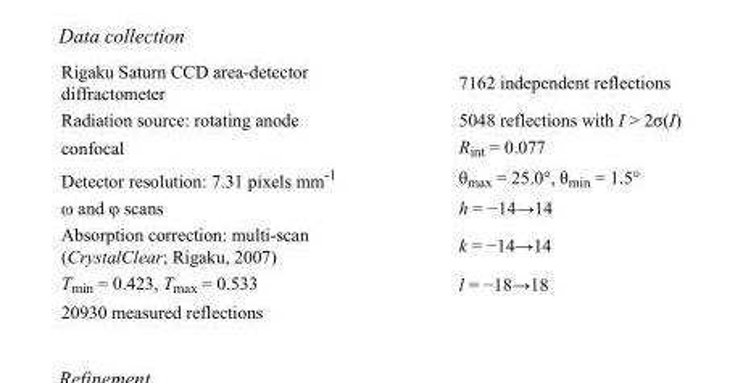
<table><tbody><tr><td>Rigaku Saturn CCD area-detector diffractometer</td><td>7162 independent reflections</td></tr><tr><td>Radiation source: rotating anode</td><td>5048 reflections with I &gt; 2σ(I)</td></tr><tr><td>confocal</td><td>R<sub>int</sub> = 0.077</td></tr><tr><td>Detector resolution: 7.31 pixels mm<sup>-1</sup></td><td>θ<sub>max</sub> = 25.0°, θ<sub>min</sub> = 1.5°</td></tr><tr><td>ω and φ scans</td><td>h = −14→14</td></tr><tr><td>Absorption correction: multi-scan (CrystalClear; Rigaku, 2007)</td><td>k = −14→14</td></tr><tr><td>T<sub>min</sub> = 0.423, T<sub>max</sub> = 0.533</td><td>l = −18→18</td></tr><tr><td>20930 measured reflections</td><td></td></tr></tbody></table>